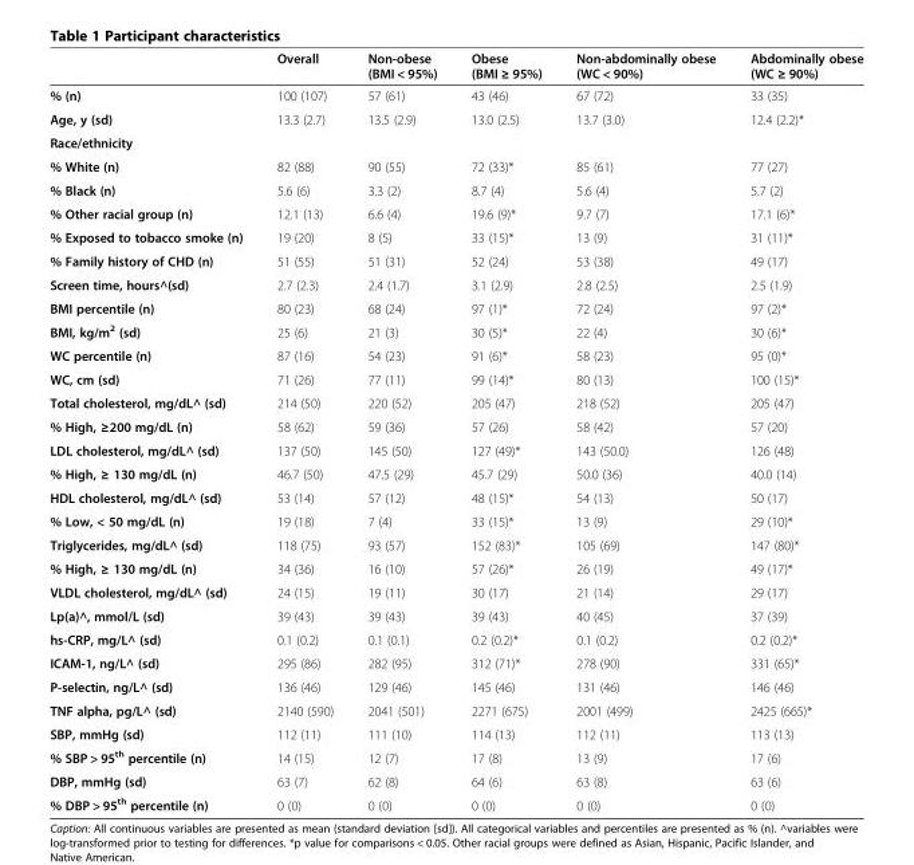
<table><thead><tr><td></td><td>Overall</td><td>Non-obese (BMI &lt; 95%)</td><td>Obese (BMI ≥ 95%)</td><td>Non-abdominally obese (WC &lt; 90%)</td><td>Abdominally obese (WC ≥ 90%)</td></tr></thead><tbody><tr><td>% (n)</td><td>100 (107)</td><td>57 (61)</td><td>43 (46)</td><td>67 (72)</td><td>33 (35)</td></tr><tr><td>Age, y (sd)</td><td>13.3 (2.7)</td><td>13.5 (2.9)</td><td>13.0 (2.5)</td><td>13.7 (3.0)</td><td>12.4 (2.2)*</td></tr><tr><td colspan="6">Race/ethnicity</td></tr><tr><td>% White (n)</td><td>82 (88)</td><td>90 (55)</td><td>72 (33)*</td><td>85 (61)</td><td>77 (27)</td></tr><tr><td>% Black (n)</td><td>5.6 (6)</td><td>3.3 (2)</td><td>8.7 (4)</td><td>5.6 (4)</td><td>5.7 (2)</td></tr><tr><td>% Other racial group (n)</td><td>12.1 (13)</td><td>6.6 (4)</td><td>19.6 (9)*</td><td>9.7 (7)</td><td>17.1 (6)*</td></tr><tr><td>% Exposed to tobacco smoke (n)</td><td>19 (20)</td><td>8 (5)</td><td>33 (15)*</td><td>13 (9)</td><td>31 (11)*</td></tr><tr><td>% Family history of CHD (n)</td><td>51 (55)</td><td>51 (31)</td><td>52 (24)</td><td>53 (38)</td><td>49 (17)</td></tr><tr><td>Screen time, hours^(sd)</td><td>2.7 (2.3)</td><td>2.4 (1.7)</td><td>3.1 (2.9)</td><td>2.8 (2.5)</td><td>2.5 (1.9)</td></tr><tr><td>BMI percentile (n)</td><td>80 (23)</td><td>68 (24)</td><td>97 (1)*</td><td>72 (24)</td><td>97 (2)*</td></tr><tr><td>BMI, kg/m<sup>2</sup> (sd)</td><td>25 (6)</td><td>21 (3)</td><td>30 (5)*</td><td>22 (4)</td><td>30 (6)*</td></tr><tr><td>WC percentile (n)</td><td>87 (16)</td><td>54 (23)</td><td>91 (6)*</td><td>58 (23)</td><td>95 (0)*</td></tr><tr><td>WC, cm (sd)</td><td>71 (26)</td><td>77 (11)</td><td>99 (14)*</td><td>80 (13)</td><td>100 (15)*</td></tr><tr><td>Total cholesterol, mg/dL^ (sd)</td><td>214 (50)</td><td>220 (52)</td><td>205 (47)</td><td>218 (52)</td><td>205 (47)</td></tr><tr><td>% High, ≥200 mg/dL (n)</td><td>58 (62)</td><td>59 (36)</td><td>57 (26)</td><td>58 (42)</td><td>57 (20)</td></tr><tr><td>LDL cholesterol, mg/dL^ (sd)</td><td>137 (50)</td><td>145 (50)</td><td>127 (49)*</td><td>143 (50.0)</td><td>126 (48)</td></tr><tr><td>% High, ≥ 130 mg/dL (n)</td><td>46.7 (50)</td><td>47.5 (29)</td><td>45.7 (29)</td><td>50.0 (36)</td><td>40.0 (14)</td></tr><tr><td>HDL cholesterol, mg/dL^ (sd)</td><td>53 (14)</td><td>57 (12)</td><td>48 (15)*</td><td>54 (13)</td><td>50 (17)</td></tr><tr><td>% Low, &lt; 50 mg/dL (n)</td><td>19 (18)</td><td>7 (4)</td><td>33 (15)*</td><td>13 (9)</td><td>29 (10)*</td></tr><tr><td>Triglycerides, mg/dL^ (sd)</td><td>118 (75)</td><td>93 (57)</td><td>152 (83)*</td><td>105 (69)</td><td>147 (80)*</td></tr><tr><td>% High, ≥ 130 mg/dL (n)</td><td>34 (36)</td><td>16 (10)</td><td>57 (26)*</td><td>26 (19)</td><td>49 (17)*</td></tr><tr><td>VLDL cholesterol, mg/dL^ (sd)</td><td>24 (15)</td><td>19 (11)</td><td>30 (17)</td><td>21 (14)</td><td>29 (17)</td></tr><tr><td>Lp(a)^, mmol/L (sd)</td><td>39 (43)</td><td>39 (43)</td><td>39 (43)</td><td>40 (45)</td><td>37 (39)</td></tr><tr><td>hs-CRP, mg/L^ (sd)</td><td>0.1 (0.2)</td><td>0.1 (0.1)</td><td>0.2 (0.2)*</td><td>0.1 (0.2)</td><td>0.2 (0.2)*</td></tr><tr><td>ICAM-1, ng/L^ (sd)</td><td>295 (86)</td><td>282 (95)</td><td>312 (71)*</td><td>278 (90)</td><td>331 (65)*</td></tr><tr><td>P-selectin, ng/L^ (sd)</td><td>136 (46)</td><td>129 (46)</td><td>145 (46)</td><td>131 (46)</td><td>146 (46)</td></tr><tr><td>TNF alpha, pg/L^ (sd)</td><td>2140 (590)</td><td>2041 (501)</td><td>2271 (675)</td><td>2001 (499)</td><td>2425 (665)*</td></tr><tr><td>SBP, mmHg (sd)</td><td>112 (11)</td><td>111 (10)</td><td>114 (13)</td><td>112 (11)</td><td>113 (13)</td></tr><tr><td>% SBP &gt; 95<sup>th</sup> percentile (n)</td><td>14 (15)</td><td>12 (7)</td><td>17 (8)</td><td>13 (9)</td><td>17 (6)</td></tr><tr><td>DBP, mmHg (sd)</td><td>63 (7)</td><td>62 (8)</td><td>64 (6)</td><td>63 (8)</td><td>63 (6)</td></tr><tr><td>% DBP &gt; 95<sup>th</sup> percentile (n)</td><td>0 (0)</td><td>0 (0)</td><td>0 (0)</td><td>0 (0)</td><td>0 (0)</td></tr></tbody></table>